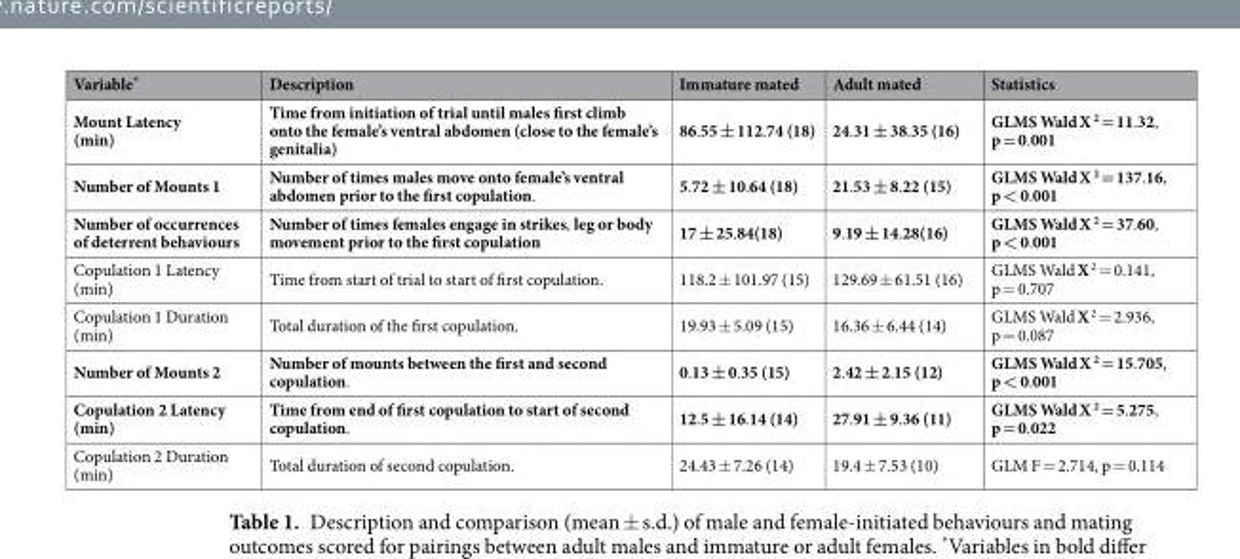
<table><thead><tr><td>Variable*</td><td>Description</td><td>Immature mated</td><td>Adult mated</td><td>Statistics</td></tr></thead><tbody><tr><td>Mount Latency (min)</td><td>Time from initiation of trial until males first climb onto the female’s ventral abdomen (close to the female’s genitalia)</td><td>86.55 ± 112.74 (18)</td><td>24.31 ± 38.35 (16)</td><td>GLMS Wald X <sup>2</sup> = 11.32, p = 0.001</td></tr><tr><td>Number of Mounts 1</td><td>Number of times males move onto female’s ventral abdomen prior to the first copulation.</td><td>5.72 ± 10.64 (18)</td><td>21.53 ± 8.22 (15)</td><td>GLMS Wald X <sup>2</sup> = 137.16, p &lt; 0.001</td></tr><tr><td>Number of occurrences of deterrent behaviours</td><td>Number of times females engage in strikes, leg or body movement prior to the first copulation</td><td>17 ± 25.84(18)</td><td>9.19 ± 14.28(16)</td><td>GLMS Wald X <sup>2</sup> = 37.60, p &lt; 0.001</td></tr><tr><td>Copulation 1 Latency (min)</td><td>Time from start of trial to start of first copulation.</td><td>118.2 ± 101.97 (15)</td><td>129.69 ± 61.51 (16)</td><td>GLMS Wald X <sup>2</sup> = 0.141, p = 0.707</td></tr><tr><td>Copulation 1 Duration (min)</td><td>Total duration of the first copulation.</td><td>19.93 ± 5.09 (15)</td><td>16.36 ± 6.44 (14)</td><td>GLMS Wald X <sup>2</sup> = 2.936, p = 0.087</td></tr><tr><td>Number of Mounts 2</td><td>Number of mounts between the first and second copulation.</td><td>0.13 ± 0.35 (15)</td><td>2.42 ± 2.15 (12)</td><td>GLMS Wald X <sup>2</sup> = 15.705, p &lt; 0.001</td></tr><tr><td>Copulation 2 Latency (min)</td><td>Time from end of first copulation to start of second copulation.</td><td>12.5 ± 16.14 (14)</td><td>27.91 ± 9.36 (11)</td><td>GLMS Wald X <sup>2</sup> = 5.275, p = 0.022</td></tr><tr><td>Copulation 2 Duration (min)</td><td>Total duration of second copulation.</td><td>24.43 ± 7.26 (14)</td><td>19.4 ± 7.53 (10)</td><td>GLM F = 2.714, p = 0.114</td></tr></tbody></table>